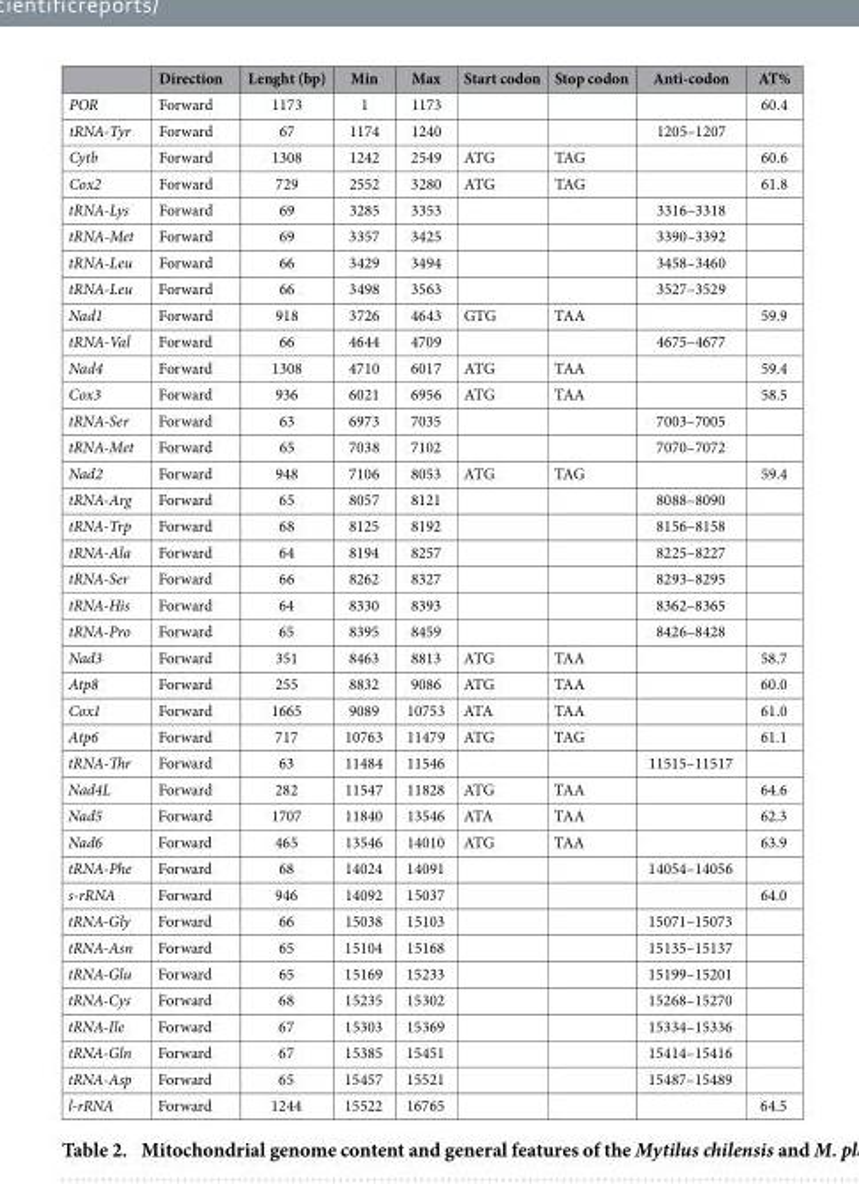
<table><thead><tr><td></td><td>Direction</td><td>Lenght (bp)</td><td>Min</td><td>Max</td><td>Start codon</td><td>Stop codon</td><td>Anti-codon</td><td>AT%</td></tr></thead><tbody><tr><td>POR</td><td>Forward</td><td>1173</td><td>1</td><td>1173</td><td></td><td></td><td></td><td>60.4</td></tr><tr><td>tRNA-Tyr</td><td>Forward</td><td>67</td><td>1174</td><td>1240</td><td></td><td></td><td>1205–1207</td><td></td></tr><tr><td>Cytb</td><td>Forward</td><td>1308</td><td>1242</td><td>2549</td><td>ATG</td><td>TAG</td><td></td><td>60.6</td></tr><tr><td>Cox2</td><td>Forward</td><td>729</td><td>2552</td><td>3280</td><td>ATG</td><td>TAG</td><td></td><td>61.8</td></tr><tr><td>tRNA-Lys</td><td>Forward</td><td>69</td><td>3285</td><td>3353</td><td></td><td></td><td>3316–3318</td><td></td></tr><tr><td>tRNA-Met</td><td>Forward</td><td>69</td><td>3357</td><td>3425</td><td></td><td></td><td>3390–3392</td><td></td></tr><tr><td>tRNA-Leu</td><td>Forward</td><td>66</td><td>3429</td><td>3494</td><td></td><td></td><td>3458–3460</td><td></td></tr><tr><td>tRNA-Leu</td><td>Forward</td><td>66</td><td>3498</td><td>3563</td><td></td><td></td><td>3527–3529</td><td></td></tr><tr><td>Nad1</td><td>Forward</td><td>918</td><td>3726</td><td>4643</td><td>GTG</td><td>TAA</td><td></td><td>59.9</td></tr><tr><td>tRNA-Val</td><td>Forward</td><td>66</td><td>4644</td><td>4709</td><td></td><td></td><td>4675–4677</td><td></td></tr><tr><td>Nad4</td><td>Forward</td><td>1308</td><td>4710</td><td>6017</td><td>ATG</td><td>TAA</td><td></td><td>59.4</td></tr><tr><td>Cox3</td><td>Forward</td><td>936</td><td>6021</td><td>6956</td><td>ATG</td><td>TAA</td><td></td><td>58.5</td></tr><tr><td>tRNA-Ser</td><td>Forward</td><td>63</td><td>6973</td><td>7035</td><td></td><td></td><td>7003–7005</td><td></td></tr><tr><td>tRNA-Met</td><td>Forward</td><td>65</td><td>7038</td><td>7102</td><td></td><td></td><td>7070–7072</td><td></td></tr><tr><td>Nad2</td><td>Forward</td><td>948</td><td>7106</td><td>8053</td><td>ATG</td><td>TAG</td><td></td><td>59.4</td></tr><tr><td>tRNA-Arg</td><td>Forward</td><td>65</td><td>8057</td><td>8121</td><td></td><td></td><td>8088–8090</td><td></td></tr><tr><td>tRNA-Trp</td><td>Forward</td><td>68</td><td>8125</td><td>8192</td><td></td><td></td><td>8156–8158</td><td></td></tr><tr><td>tRNA-Ala</td><td>Forward</td><td>64</td><td>8194</td><td>8257</td><td></td><td></td><td>8225–8227</td><td></td></tr><tr><td>tRNA-Ser</td><td>Forward</td><td>66</td><td>8262</td><td>8327</td><td></td><td></td><td>8293–8295</td><td></td></tr><tr><td>tRNA-His</td><td>Forward</td><td>64</td><td>8330</td><td>8393</td><td></td><td></td><td>8362–8365</td><td></td></tr><tr><td>tRNA-Pro</td><td>Forward</td><td>65</td><td>8395</td><td>8459</td><td></td><td></td><td>8426–8428</td><td></td></tr><tr><td>Nad3</td><td>Forward</td><td>351</td><td>8463</td><td>8813</td><td>ATG</td><td>TAA</td><td></td><td>58.7</td></tr><tr><td>Atp8</td><td>Forward</td><td>255</td><td>8832</td><td>9086</td><td>ATG</td><td>TAA</td><td></td><td>60.0</td></tr><tr><td>Cox1</td><td>Forward</td><td>1665</td><td>9089</td><td>10753</td><td>ATA</td><td>TAA</td><td></td><td>61.0</td></tr><tr><td>Atp6</td><td>Forward</td><td>717</td><td>10763</td><td>11479</td><td>ATG</td><td>TAG</td><td></td><td>61.1</td></tr><tr><td>tRNA-Thr</td><td>Forward</td><td>63</td><td>11484</td><td>11546</td><td></td><td></td><td>11515–11517</td><td></td></tr><tr><td>Nad4L</td><td>Forward</td><td>282</td><td>11547</td><td>11828</td><td>ATG</td><td>TAA</td><td></td><td>64.6</td></tr><tr><td>Nad5</td><td>Forward</td><td>1707</td><td>11840</td><td>13546</td><td>ATA</td><td>TAA</td><td></td><td>62.3</td></tr><tr><td>Nad6</td><td>Forward</td><td>465</td><td>13546</td><td>14010</td><td>ATG</td><td>TAA</td><td></td><td>63.9</td></tr><tr><td>tRNA-Phe</td><td>Forward</td><td>68</td><td>14024</td><td>14091</td><td></td><td></td><td>14054–14056</td><td></td></tr><tr><td>s-rRNA</td><td>Forward</td><td>946</td><td>14092</td><td>15037</td><td></td><td></td><td></td><td>64.0</td></tr><tr><td>tRNA-Gly</td><td>Forward</td><td>66</td><td>15038</td><td>15103</td><td></td><td></td><td>15071–15073</td><td></td></tr><tr><td>tRNA-Asn</td><td>Forward</td><td>65</td><td>15104</td><td>15168</td><td></td><td></td><td>15135–15137</td><td></td></tr><tr><td>tRNA-Glu</td><td>Forward</td><td>65</td><td>15169</td><td>15233</td><td></td><td></td><td>15199–15201</td><td></td></tr><tr><td>tRNA-Cys</td><td>Forward</td><td>68</td><td>15235</td><td>15302</td><td></td><td></td><td>15268–15270</td><td></td></tr><tr><td>tRNA-Ile</td><td>Forward</td><td>67</td><td>15303</td><td>15369</td><td></td><td></td><td>15334–15336</td><td></td></tr><tr><td>tRNA-Gln</td><td>Forward</td><td>67</td><td>15385</td><td>15451</td><td></td><td></td><td>15414–15416</td><td></td></tr><tr><td>tRNA-Asp</td><td>Forward</td><td>65</td><td>15457</td><td>15521</td><td></td><td></td><td>15487–15489</td><td></td></tr><tr><td>l-rRNA</td><td>Forward</td><td>1244</td><td>15522</td><td>16765</td><td></td><td></td><td></td><td>64.5</td></tr></tbody></table>